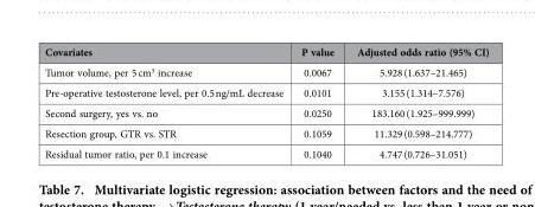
<table><thead><tr><td>Covariates</td><td>P value</td><td>Adjusted odds ratio (95% CI)</td></tr></thead><tbody><tr><td>Tumor volume, per 5 cm<sup>3</sup> increase</td><td>0.0067</td><td>5.928 (1.637–21.465)</td></tr><tr><td>Pre-operative testosterone level, per 0.5 ng/mL decrease</td><td>0.0101</td><td>3.155 (1.314–7.576)</td></tr><tr><td>Second surgery, yes vs. no</td><td>0.0250</td><td>183.160 (1.925–999.999)</td></tr><tr><td>Resection group, GTR vs. STR</td><td>0.1059</td><td>11.329 (0.598–214.777)</td></tr><tr><td>Residual tumor ratio, per 0.1 increase</td><td>0.1040</td><td>4.747 (0.726–31.051)</td></tr></tbody></table>